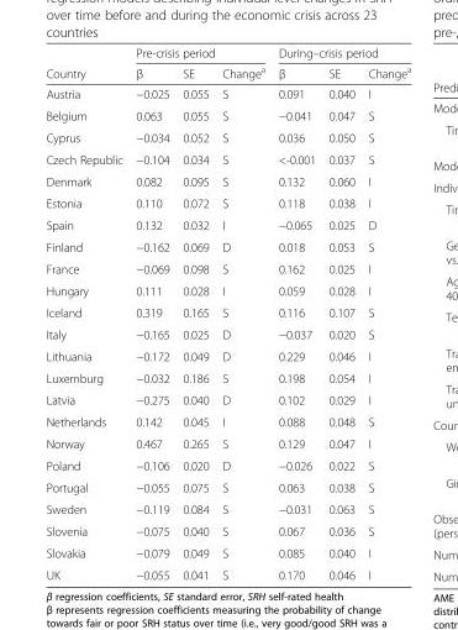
<table><thead><tr><td rowspan="2">Country</td><td colspan="3">Pre-crisis period</td><td colspan="3">During–crisis period</td></tr><tr><td>β</td><td>SE</td><td>Change<sup>a</sup></td><td>β</td><td>SE</td><td>Change<sup>a</sup></td></tr></thead><tbody><tr><td>Austria</td><td>−0.025</td><td>0.055</td><td>S</td><td>0.091</td><td>0.040</td><td>I</td></tr><tr><td>Belgium</td><td>0.063</td><td>0.055</td><td>S</td><td>−0.041</td><td>0.047</td><td>S</td></tr><tr><td>Cyprus</td><td>−0.034</td><td>0.052</td><td>S</td><td>0.036</td><td>0.050</td><td>S</td></tr><tr><td>Czech Republic</td><td>−0.104</td><td>0.034</td><td>S</td><td>&lt;-0.001</td><td>0.037</td><td>S</td></tr><tr><td>Denmark</td><td>0.082</td><td>0.095</td><td>S</td><td>0.132</td><td>0.060</td><td>I</td></tr><tr><td>Estonia</td><td>0.110</td><td>0.072</td><td>S</td><td>0.118</td><td>0.038</td><td>I</td></tr><tr><td>Spain</td><td>0.132</td><td>0.032</td><td>I</td><td>−0.065</td><td>0.025</td><td>D</td></tr><tr><td>Finland</td><td>−0.162</td><td>0.069</td><td>D</td><td>0.018</td><td>0.053</td><td>S</td></tr><tr><td>France</td><td>−0.069</td><td>0.098</td><td>S</td><td>0.162</td><td>0.025</td><td>I</td></tr><tr><td>Hungary</td><td>0.111</td><td>0.028</td><td>I</td><td>0.059</td><td>0.028</td><td>I</td></tr><tr><td>Iceland</td><td>0.319</td><td>0.165</td><td>S</td><td>0.116</td><td>0.107</td><td>S</td></tr><tr><td>Italy</td><td>−0.165</td><td>0.025</td><td>D</td><td>−0.037</td><td>0.020</td><td>S</td></tr><tr><td>Lithuania</td><td>−0.172</td><td>0.049</td><td>D</td><td>0.229</td><td>0.046</td><td>I</td></tr><tr><td>Luxemburg</td><td>−0.032</td><td>0.186</td><td>S</td><td>0.198</td><td>0.054</td><td>I</td></tr><tr><td>Latvia</td><td>−0.275</td><td>0.040</td><td>D</td><td>0.102</td><td>0.029</td><td>I</td></tr><tr><td>Netherlands</td><td>0.142</td><td>0.045</td><td>I</td><td>0.088</td><td>0.048</td><td>S</td></tr><tr><td>Norway</td><td>0.467</td><td>0.265</td><td>S</td><td>0.129</td><td>0.047</td><td>I</td></tr><tr><td>Poland</td><td>−0.106</td><td>0.020</td><td>D</td><td>−0.026</td><td>0.022</td><td>S</td></tr><tr><td>Portugal</td><td>−0.055</td><td>0.075</td><td>S</td><td>0.063</td><td>0.038</td><td>S</td></tr><tr><td>Sweden</td><td>−0.119</td><td>0.084</td><td>S</td><td>−0.031</td><td>0.063</td><td>S</td></tr><tr><td>Slovenia</td><td>−0.075</td><td>0.040</td><td>S</td><td>0.067</td><td>0.036</td><td>S</td></tr><tr><td>Slovakia</td><td>−0.079</td><td>0.049</td><td>S</td><td>0.085</td><td>0.040</td><td>I</td></tr><tr><td>UK</td><td>−0.055</td><td>0.041</td><td>S</td><td>0.170</td><td>0.046</td><td>I</td></tr></tbody></table>